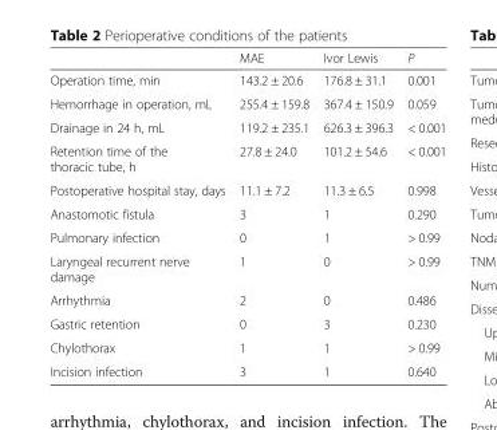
<table><thead><tr><td></td><td>MAE</td><td>Ivor Lewis</td><td>P</td></tr></thead><tbody><tr><td>Operation time, min</td><td>143.2 ± 20.6</td><td>176.8 ± 31.1</td><td>0.001</td></tr><tr><td>Hemorrhage in operation, mL</td><td>255.4 ± 159.8</td><td>367.4 ± 150.9</td><td>0.059</td></tr><tr><td>Drainage in 24 h, mL</td><td>119.2 ± 235.1</td><td>626.3 ± 396.3</td><td>&lt; 0.001</td></tr><tr><td>Retention time of the thoracic tube, h</td><td>27.8 ± 24.0</td><td>101.2 ± 54.6</td><td>&lt; 0.001</td></tr><tr><td>Postoperative hospital stay, days</td><td>11.1 ± 7.2</td><td>11.3 ± 6.5</td><td>0.998</td></tr><tr><td>Anastomotic fistula</td><td>3</td><td>1</td><td>0.290</td></tr><tr><td>Pulmonary infection</td><td>0</td><td>1</td><td>&gt; 0.99</td></tr><tr><td>Laryngeal recurrent nerve damage</td><td>1</td><td>0</td><td>&gt; 0.99</td></tr><tr><td>Arrhythmia</td><td>2</td><td>0</td><td>0.486</td></tr><tr><td>Gastric retention</td><td>0</td><td>3</td><td>0.230</td></tr><tr><td>Chylothorax</td><td>1</td><td>1</td><td>&gt; 0.99</td></tr><tr><td>Incision infection</td><td>3</td><td>1</td><td>0.640</td></tr></tbody></table>